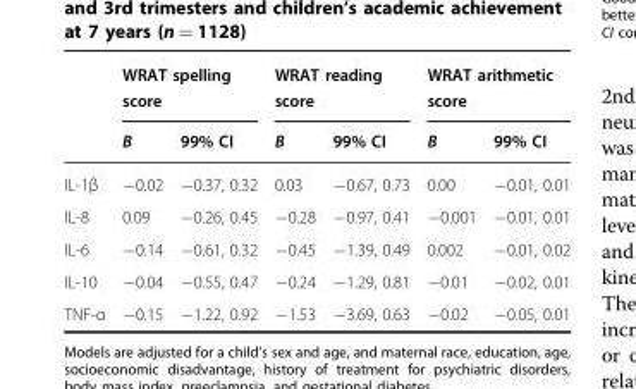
<table><thead><tr><td rowspan="2"></td><td colspan="2">WRAT spelling score</td><td colspan="2">WRAT reading score</td><td colspan="2">WRAT arithmetic score</td></tr><tr><td>B</td><td>99% CI</td><td>B</td><td>99% CI</td><td>B</td><td>99% CI</td></tr></thead><tbody><tr><td>IL-1β</td><td>−0.02</td><td>−0.37, 0.32</td><td>0.03</td><td>−0.67, 0.73</td><td>0.00</td><td>−0.01, 0.01</td></tr><tr><td>IL-8</td><td>0.09</td><td>−0.26, 0.45</td><td>−0.28</td><td>−0.97, 0.41</td><td>−0.001</td><td>−0.01, 0.01</td></tr><tr><td>IL-6</td><td>−0.14</td><td>−0.61, 0.32</td><td>−0.45</td><td>−1.39, 0.49</td><td>0.002</td><td>−0.01, 0.02</td></tr><tr><td>IL-10</td><td>−0.04</td><td>−0.55, 0.47</td><td>−0.24</td><td>−1.29, 0.81</td><td>−0.01</td><td>−0.02, 0.01</td></tr><tr><td>TNF-α</td><td>−0.15</td><td>−1.22, 0.92</td><td>−1.53</td><td>−3.69, 0.63</td><td>−0.02</td><td>−0.05, 0.01</td></tr></tbody></table>